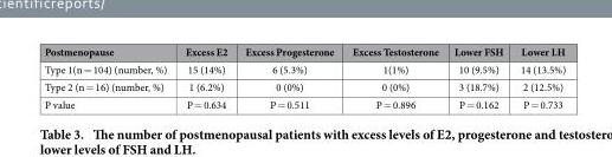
<table><thead><tr><td>Postmenopause</td><td>Excess E2</td><td>Excess Progesterone</td><td>Excess Testosterone</td><td>Lower FSH</td><td>Lower LH</td></tr></thead><tbody><tr><td>Type 1(n = 104) (number, %)</td><td>15 (14%)</td><td>6 (5.3%)</td><td>1(1%)</td><td>10 (9.5%)</td><td>14 (13.5%)</td></tr><tr><td>Type 2 (n = 16) (number, %)</td><td>1 (6.2%)</td><td>0 (0%)</td><td>0 (0%)</td><td>3 (18.7%)</td><td>2 (12.5%)</td></tr><tr><td>P value</td><td>P = 0.634</td><td>P = 0.511</td><td>P = 0.896</td><td>P = 0.162</td><td>P = 0.733</td></tr></tbody></table>